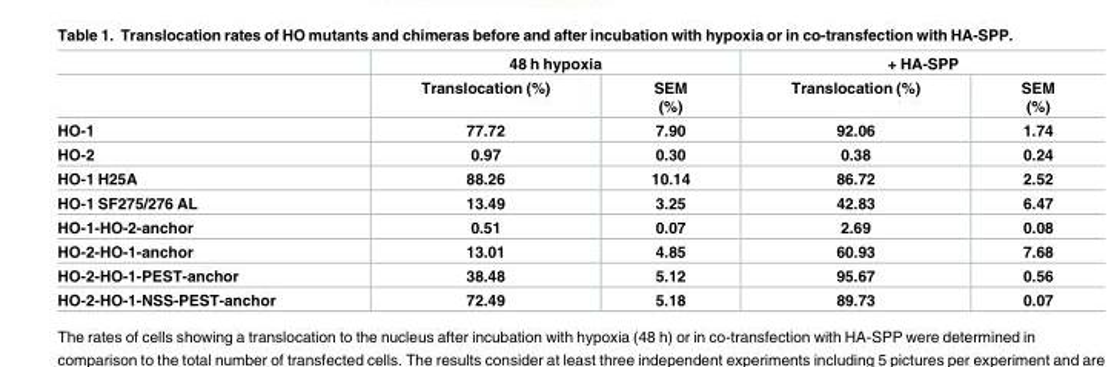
<table><thead><tr><td rowspan="2"></td><td colspan="2">48 h hypoxia</td><td colspan="2">+ HA-SPP</td></tr><tr><td>Translocation (%)</td><td>SEM (%)</td><td>Translocation (%)</td><td>SEM (%)</td></tr></thead><tbody><tr><td>HO-1</td><td>77.72</td><td>7.90</td><td>92.06</td><td>1.74</td></tr><tr><td>HO-2</td><td>0.97</td><td>0.30</td><td>0.38</td><td>0.24</td></tr><tr><td>HO-1 H25A</td><td>88.26</td><td>10.14</td><td>86.72</td><td>2.52</td></tr><tr><td>HO-1 SF275/276 AL</td><td>13.49</td><td>3.25</td><td>42.83</td><td>6.47</td></tr><tr><td>HO-1-HO-2-anchor</td><td>0.51</td><td>0.07</td><td>2.69</td><td>0.08</td></tr><tr><td>HO-2-HO-1-anchor</td><td>13.01</td><td>4.85</td><td>60.93</td><td>7.68</td></tr><tr><td>HO-2-HO-1-PEST-anchor</td><td>38.48</td><td>5.12</td><td>95.67</td><td>0.56</td></tr><tr><td>HO-2-HO-1-NSS-PEST-anchor</td><td>72.49</td><td>5.18</td><td>89.73</td><td>0.07</td></tr></tbody></table>